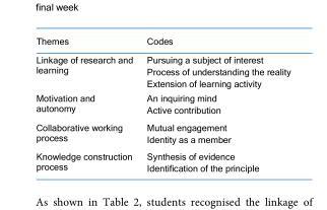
<table><tbody><tr><td>Themes</td><td>Codes</td></tr><tr><td rowspan="3">Linkage of research and learning</td><td>Pursuing a subject of interest</td></tr><tr><td>Process of understanding the reality</td></tr><tr><td>Extension of learning activity</td></tr><tr><td rowspan="2">Motivation and autonomy</td><td>An inquiring mind</td></tr><tr><td>Active contribution</td></tr><tr><td rowspan="2">Collaborative working process</td><td>Mutual engagement</td></tr><tr><td>Identity as a member</td></tr><tr><td rowspan="2">Knowledge construction process</td><td>Synthesis of evidence</td></tr><tr><td>Identification of the principle</td></tr></tbody></table>